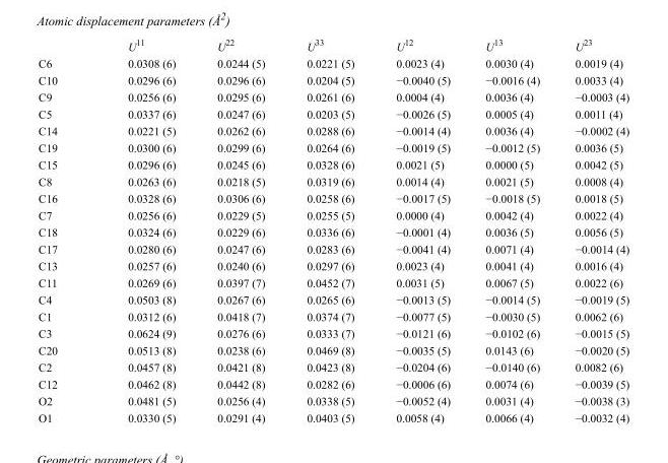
<table><thead><tr><td></td><td>U<sup>11</sup></td><td>U<sup>22</sup></td><td>U<sup>33</sup></td><td>U<sup>12</sup></td><td>U<sup>13</sup></td><td>U<sup>23</sup></td></tr></thead><tbody><tr><td>C6</td><td>0.0308 (6)</td><td>0.0244 (5)</td><td>0.0221 (5)</td><td>0.0023 (4)</td><td>0.0030 (4)</td><td>0.0019 (4)</td></tr><tr><td>C10</td><td>0.0296 (6)</td><td>0.0296 (6)</td><td>0.0204 (5)</td><td>−0.0040 (5)</td><td>−0.0016 (4)</td><td>0.0033 (4)</td></tr><tr><td>C9</td><td>0.0256 (6)</td><td>0.0295 (6)</td><td>0.0261 (6)</td><td>0.0004 (4)</td><td>0.0036 (4)</td><td>−0.0003 (4)</td></tr><tr><td>C5</td><td>0.0337 (6)</td><td>0.0247 (6)</td><td>0.0203 (5)</td><td>−0.0026 (5)</td><td>0.0005 (4)</td><td>0.0011 (4)</td></tr><tr><td>C14</td><td>0.0221 (5)</td><td>0.0262 (6)</td><td>0.0288 (6)</td><td>−0.0014 (4)</td><td>0.0036 (4)</td><td>−0.0002 (4)</td></tr><tr><td>C19</td><td>0.0300 (6)</td><td>0.0299 (6)</td><td>0.0264 (6)</td><td>−0.0019 (5)</td><td>−0.0012 (5)</td><td>0.0036 (5)</td></tr><tr><td>C15</td><td>0.0296 (6)</td><td>0.0245 (6)</td><td>0.0328 (6)</td><td>0.0021 (5)</td><td>0.0000 (5)</td><td>0.0042 (5)</td></tr><tr><td>C8</td><td>0.0263 (6)</td><td>0.0218 (5)</td><td>0.0319 (6)</td><td>0.0014 (4)</td><td>0.0021 (5)</td><td>0.0008 (4)</td></tr><tr><td>C16</td><td>0.0328 (6)</td><td>0.0306 (6)</td><td>0.0258 (6)</td><td>−0.0017 (5)</td><td>−0.0018 (5)</td><td>0.0018 (5)</td></tr><tr><td>C7</td><td>0.0256 (6)</td><td>0.0229 (5)</td><td>0.0255 (5)</td><td>0.0000 (4)</td><td>0.0042 (4)</td><td>0.0022 (4)</td></tr><tr><td>C18</td><td>0.0324 (6)</td><td>0.0229 (6)</td><td>0.0336 (6)</td><td>−0.0001 (4)</td><td>0.0036 (5)</td><td>0.0056 (5)</td></tr><tr><td>C17</td><td>0.0280 (6)</td><td>0.0247 (6)</td><td>0.0283 (6)</td><td>−0.0041 (4)</td><td>0.0071 (4)</td><td>−0.0014 (4)</td></tr><tr><td>C13</td><td>0.0257 (6)</td><td>0.0240 (6)</td><td>0.0297 (6)</td><td>0.0023 (4)</td><td>0.0041 (4)</td><td>0.0016 (4)</td></tr><tr><td>C11</td><td>0.0269 (6)</td><td>0.0397 (7)</td><td>0.0452 (7)</td><td>0.0031 (5)</td><td>0.0067 (5)</td><td>0.0022 (6)</td></tr><tr><td>C4</td><td>0.0503 (8)</td><td>0.0267 (6)</td><td>0.0265 (6)</td><td>−0.0013 (5)</td><td>−0.0014 (5)</td><td>−0.0019 (5)</td></tr><tr><td>C1</td><td>0.0312 (6)</td><td>0.0418 (7)</td><td>0.0374 (7)</td><td>−0.0077 (5)</td><td>−0.0030 (5)</td><td>0.0062 (6)</td></tr><tr><td>C3</td><td>0.0624 (9)</td><td>0.0276 (6)</td><td>0.0333 (7)</td><td>−0.0121 (6)</td><td>−0.0102 (6)</td><td>−0.0015 (5)</td></tr><tr><td>C20</td><td>0.0513 (8)</td><td>0.0238 (6)</td><td>0.0469 (8)</td><td>−0.0035 (5)</td><td>0.0143 (6)</td><td>−0.0020 (5)</td></tr><tr><td>C2</td><td>0.0457 (8)</td><td>0.0421 (8)</td><td>0.0423 (8)</td><td>−0.0204 (6)</td><td>−0.0140 (6)</td><td>0.0082 (6)</td></tr><tr><td>C12</td><td>0.0462 (8)</td><td>0.0442 (8)</td><td>0.0282 (6)</td><td>−0.0006 (6)</td><td>0.0074 (6)</td><td>−0.0039 (5)</td></tr><tr><td>O2</td><td>0.0481 (5)</td><td>0.0256 (4)</td><td>0.0338 (5)</td><td>−0.0052 (4)</td><td>0.0031 (4)</td><td>−0.0038 (3)</td></tr><tr><td>O1</td><td>0.0330 (5)</td><td>0.0291 (4)</td><td>0.0403 (5)</td><td>0.0058 (4)</td><td>0.0066 (4)</td><td>−0.0032 (4)</td></tr></tbody></table>